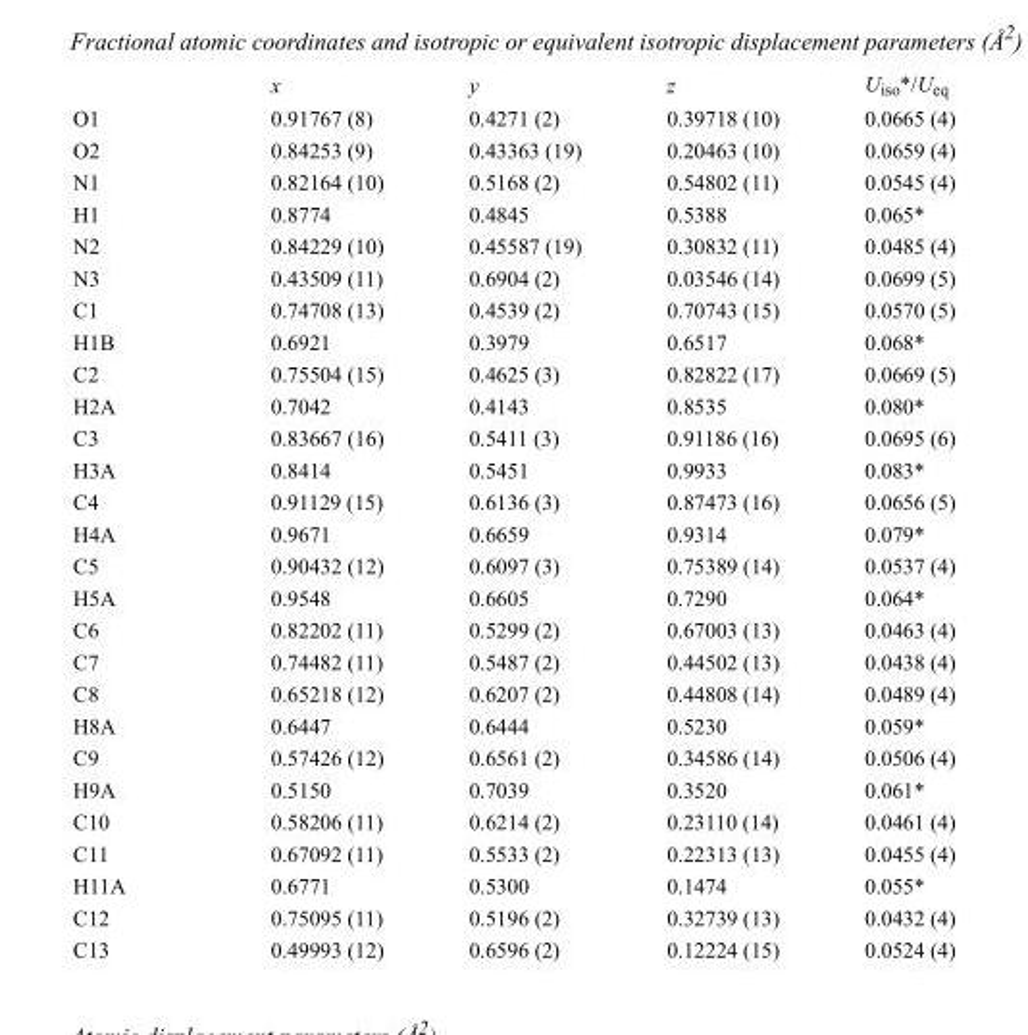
<table><thead><tr><td></td><td>x</td><td>y</td><td>z</td><td>U<sub>iso</sub>*/U<sub>eq</sub></td></tr></thead><tbody><tr><td>O1</td><td>0.91767 (8)</td><td>0.4271 (2)</td><td>0.39718 (10)</td><td>0.0665 (4)</td></tr><tr><td>O2</td><td>0.84253 (9)</td><td>0.43363 (19)</td><td>0.20463 (10)</td><td>0.0659 (4)</td></tr><tr><td>N1</td><td>0.82164 (10)</td><td>0.5168 (2)</td><td>0.54802 (11)</td><td>0.0545 (4)</td></tr><tr><td>H1</td><td>0.8774</td><td>0.4845</td><td>0.5388</td><td>0.065*</td></tr><tr><td>N2</td><td>0.84229 (10)</td><td>0.45587 (19)</td><td>0.30832 (11)</td><td>0.0485 (4)</td></tr><tr><td>N3</td><td>0.43509 (11)</td><td>0.6904 (2)</td><td>0.03546 (14)</td><td>0.0699 (5)</td></tr><tr><td>C1</td><td>0.74708 (13)</td><td>0.4539 (2)</td><td>0.70743 (15)</td><td>0.0570 (5)</td></tr><tr><td>H1B</td><td>0.6921</td><td>0.3979</td><td>0.6517</td><td>0.068*</td></tr><tr><td>C2</td><td>0.75504 (15)</td><td>0.4625 (3)</td><td>0.82822 (17)</td><td>0.0669 (5)</td></tr><tr><td>H2A</td><td>0.7042</td><td>0.4143</td><td>0.8535</td><td>0.080*</td></tr><tr><td>C3</td><td>0.83667 (16)</td><td>0.5411 (3)</td><td>0.91186 (16)</td><td>0.0695 (6)</td></tr><tr><td>H3A</td><td>0.8414</td><td>0.5451</td><td>0.9933</td><td>0.083*</td></tr><tr><td>C4</td><td>0.91129 (15)</td><td>0.6136 (3)</td><td>0.87473 (16)</td><td>0.0656 (5)</td></tr><tr><td>H4A</td><td>0.9671</td><td>0.6659</td><td>0.9314</td><td>0.079*</td></tr><tr><td>C5</td><td>0.90432 (12)</td><td>0.6097 (3)</td><td>0.75389 (14)</td><td>0.0537 (4)</td></tr><tr><td>H5A</td><td>0.9548</td><td>0.6605</td><td>0.7290</td><td>0.064*</td></tr><tr><td>C6</td><td>0.82202 (11)</td><td>0.5299 (2)</td><td>0.67003 (13)</td><td>0.0463 (4)</td></tr><tr><td>C7</td><td>0.74482 (11)</td><td>0.5487 (2)</td><td>0.44502 (13)</td><td>0.0438 (4)</td></tr><tr><td>C8</td><td>0.65218 (12)</td><td>0.6207 (2)</td><td>0.44808 (14)</td><td>0.0489 (4)</td></tr><tr><td>H8A</td><td>0.6447</td><td>0.6444</td><td>0.5230</td><td>0.059*</td></tr><tr><td>C9</td><td>0.57426 (12)</td><td>0.6561 (2)</td><td>0.34586 (14)</td><td>0.0506 (4)</td></tr><tr><td>H9A</td><td>0.5150</td><td>0.7039</td><td>0.3520</td><td>0.061*</td></tr><tr><td>C10</td><td>0.58206 (11)</td><td>0.6214 (2)</td><td>0.23110 (14)</td><td>0.0461 (4)</td></tr><tr><td>C11</td><td>0.67092 (11)</td><td>0.5533 (2)</td><td>0.22313 (13)</td><td>0.0455 (4)</td></tr><tr><td>H11A</td><td>0.6771</td><td>0.5300</td><td>0.1474</td><td>0.055*</td></tr><tr><td>C12</td><td>0.75095 (11)</td><td>0.5196 (2)</td><td>0.32739 (13)</td><td>0.0432 (4)</td></tr><tr><td>C13</td><td>0.49993 (12)</td><td>0.6596 (2)</td><td>0.12224 (15)</td><td>0.0524 (4)</td></tr></tbody></table>